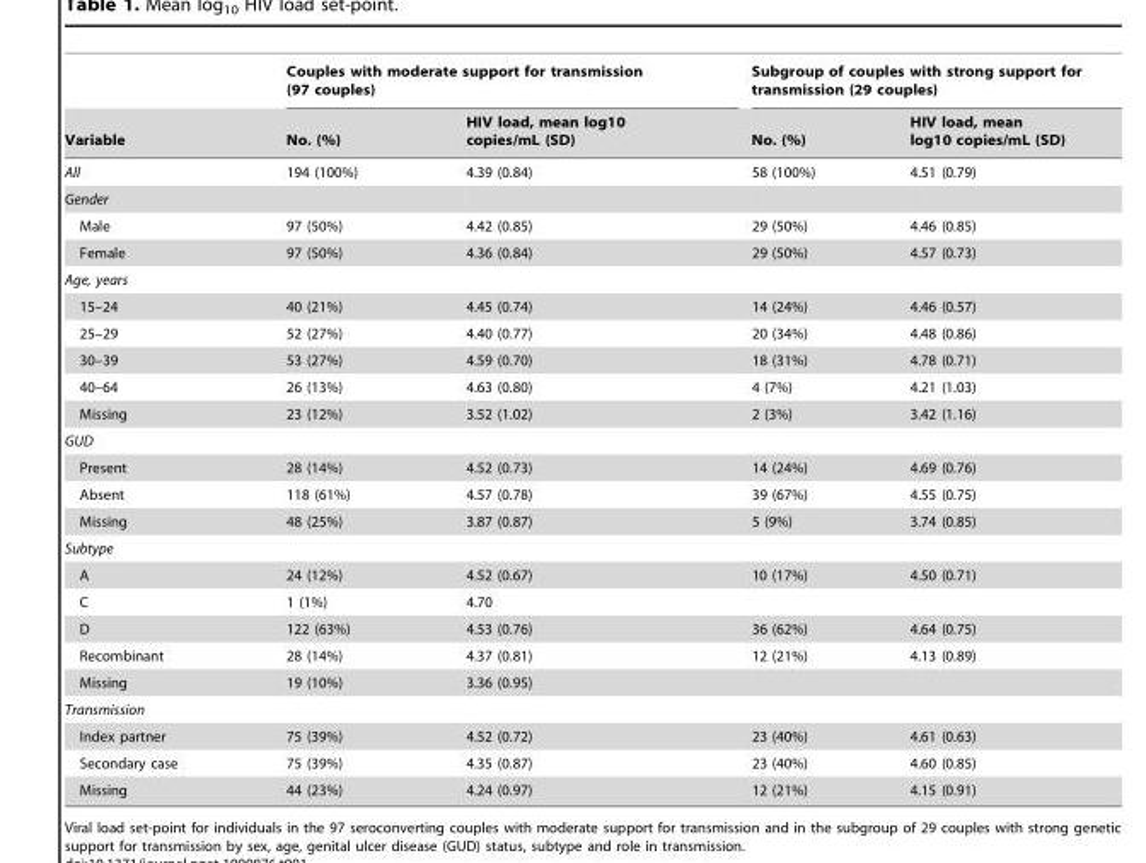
<table><thead><tr><td rowspan="2">Variable</td><td colspan="2">Couples with moderate support for transmission (97 couples)</td><td colspan="2">Subgroup of couples with strong support for transmission (29 couples)</td></tr><tr><td>No. (%)</td><td>HIV load, mean log10 copies/mL (SD)</td><td>No. (%)</td><td>HIV load, mean log10 copies/mL (SD)</td></tr></thead><tbody><tr><td>All</td><td>194 (100%)</td><td>4.39 (0.84)</td><td>58 (100%)</td><td>4.51 (0.79)</td></tr><tr><td colspan="5">Gender</td></tr><tr><td>Male</td><td>97 (50%)</td><td>4.42 (0.85)</td><td>29 (50%)</td><td>4.46 (0.85)</td></tr><tr><td>Female</td><td>97 (50%)</td><td>4.36 (0.84)</td><td>29 (50%)</td><td>4.57 (0.73)</td></tr><tr><td colspan="5">Age, years</td></tr><tr><td>15–24</td><td>40 (21%)</td><td>4.45 (0.74)</td><td>14 (24%)</td><td>4.46 (0.57)</td></tr><tr><td>25–29</td><td>52 (27%)</td><td>4.40 (0.77)</td><td>20 (34%)</td><td>4.48 (0.86)</td></tr><tr><td>30–39</td><td>53 (27%)</td><td>4.59 (0.70)</td><td>18 (31%)</td><td>4.78 (0.71)</td></tr><tr><td>40–64</td><td>26 (13%)</td><td>4.63 (0.80)</td><td>4 (7%)</td><td>4.21 (1.03)</td></tr><tr><td>Missing</td><td>23 (12%)</td><td>3.52 (1.02)</td><td>2 (3%)</td><td>3.42 (1.16)</td></tr><tr><td colspan="5">GUD</td></tr><tr><td>Present</td><td>28 (14%)</td><td>4.52 (0.73)</td><td>14 (24%)</td><td>4.69 (0.76)</td></tr><tr><td>Absent</td><td>118 (61%)</td><td>4.57 (0.78)</td><td>39 (67%)</td><td>4.55 (0.75)</td></tr><tr><td>Missing</td><td>48 (25%)</td><td>3.87 (0.87)</td><td>5 (9%)</td><td>3.74 (0.85)</td></tr><tr><td colspan="5">Subtype</td></tr><tr><td>A</td><td>24 (12%)</td><td>4.52 (0.67)</td><td>10 (17%)</td><td>4.50 (0.71)</td></tr><tr><td>C</td><td>1 (1%)</td><td>4.70</td><td></td><td></td></tr><tr><td>D</td><td>122 (63%)</td><td>4.53 (0.76)</td><td>36 (62%)</td><td>4.64 (0.75)</td></tr><tr><td>Recombinant</td><td>28 (14%)</td><td>4.37 (0.81)</td><td>12 (21%)</td><td>4.13 (0.89)</td></tr><tr><td>Missing</td><td>19 (10%)</td><td>3.36 (0.95)</td><td></td><td></td></tr><tr><td colspan="5">Transmission</td></tr><tr><td>Index partner</td><td>75 (39%)</td><td>4.52 (0.72)</td><td>23 (40%)</td><td>4.61 (0.63)</td></tr><tr><td>Secondary case</td><td>75 (39%)</td><td>4.35 (0.87)</td><td>23 (40%)</td><td>4.60 (0.85)</td></tr><tr><td>Missing</td><td>44 (23%)</td><td>4.24 (0.97)</td><td>12 (21%)</td><td>4.15 (0.91)</td></tr></tbody></table>